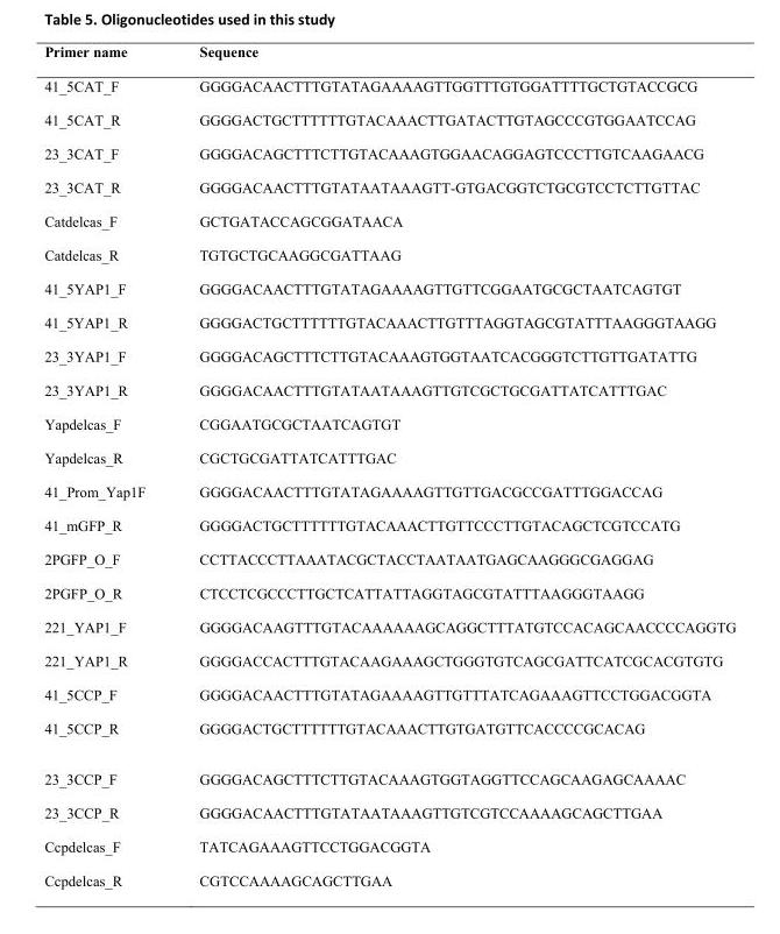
<table><thead><tr><td>Primer name</td><td>Sequence</td></tr></thead><tbody><tr><td>41_5CAT_F</td><td>GGGGACAACTTTGTATAGAAAAGTTGGTTTGTGGATTTTGCTGTACCGCG</td></tr><tr><td>41_5CAT_R</td><td>GGGGACTGCTTTTTTGTACAAACTTGATACTTGTAGCCCGTGGAATCCAG</td></tr><tr><td>23_3CAT_F</td><td>GGGGACAGCTTTCTTGTACAAAGTGGAACAGGAGTCCCTTGTCAAGAACG</td></tr><tr><td>23_3CAT_R</td><td>GGGGACAACTTTGTATAATAAAGTT-GTGACGGTCTGCGTCCTCTTGTTAC</td></tr><tr><td>Catdelcas_F</td><td>GCTGATACCAGCGGATAACA</td></tr><tr><td>Catdelcas_R</td><td>TGTGCTGCAAGGCGATTAAG</td></tr><tr><td>41_5YAP1_F</td><td>GGGGACAACTTTGTATAGAAAAGTTGTTCGGAATGCGCTAATCAGTGT</td></tr><tr><td>41_5YAP1_R</td><td>GGGGACTGCTTTTTTGTACAAACTTGTTTAGGTAGCGTATTTAAGGGTAAGG</td></tr><tr><td>23_3YAP1_F</td><td>GGGGACAGCTTTCTTGTACAAAGTGGTAATCACGGGTCTTGTTGATATTG</td></tr><tr><td>23_3YAP1_R</td><td>GGGGACAACTTTGTATAATAAAGTTGTCGCTGCGATTATCATTTGAC</td></tr><tr><td>Yapdelcas_F</td><td>CGGAATGCGCTAATCAGTGT</td></tr><tr><td>Yapdelcas_R</td><td>CGCTGCGATTATCATTTGAC</td></tr><tr><td>41_Prom_Yap1F</td><td>GGGGACAACTTTGTATAGAAAAGTTGTTGACGCCGATTTGGACCAG</td></tr><tr><td>41_mGFP_R</td><td>GGGGACTGCTTTTTTGTACAAACTTGTTCCCTTGTACAGCTCGTCCATG</td></tr><tr><td>2PGFP_O_F</td><td>CCTTACCCTTAAATACGCTACCTAATAATGAGCAAGGGCGAGGAG</td></tr><tr><td>2PGFP_O_R</td><td>CTCCTCGCCCTTGCTCATTATTAGGTAGCGTATTTAAGGGTAAGG</td></tr><tr><td>221_YAP1_F</td><td>GGGGACAAGTTTGTACAAAAAAGCAGGCTTTATGTCCACAGCAACCCCAGGTG</td></tr><tr><td>221_YAP1_R</td><td>GGGGACCACTTTGTACAAGAAAGCTGGGTGTCAGCGATTCATCGCACGTGTG</td></tr><tr><td>41_5CCP_F</td><td>GGGGACAACTTTGTATAGAAAAGTTGTTTATCAGAAAGTTCCTGGACGGTA</td></tr><tr><td>41_5CCP_R</td><td>GGGGACTGCTTTTTTGTACAAACTTGTGATGTTCACCCCGCACAG</td></tr><tr><td>23_3CCP_F</td><td>GGGGACAGCTTTCTTGTACAAAGTGGTAGGTTCCAGCAAGAGCAAAAC</td></tr><tr><td>23_3CCP_R</td><td>GGGGACAACTTTGTATAATAAAGTTGTCGTCCAAAAGCAGCTTGAA</td></tr><tr><td>Ccpdelcas_F</td><td>TATCAGAAAGTTCCTGGACGGTA</td></tr><tr><td>Ccpdelcas_R</td><td>CGTCCAAAAGCAGCTTGAA</td></tr></tbody></table>